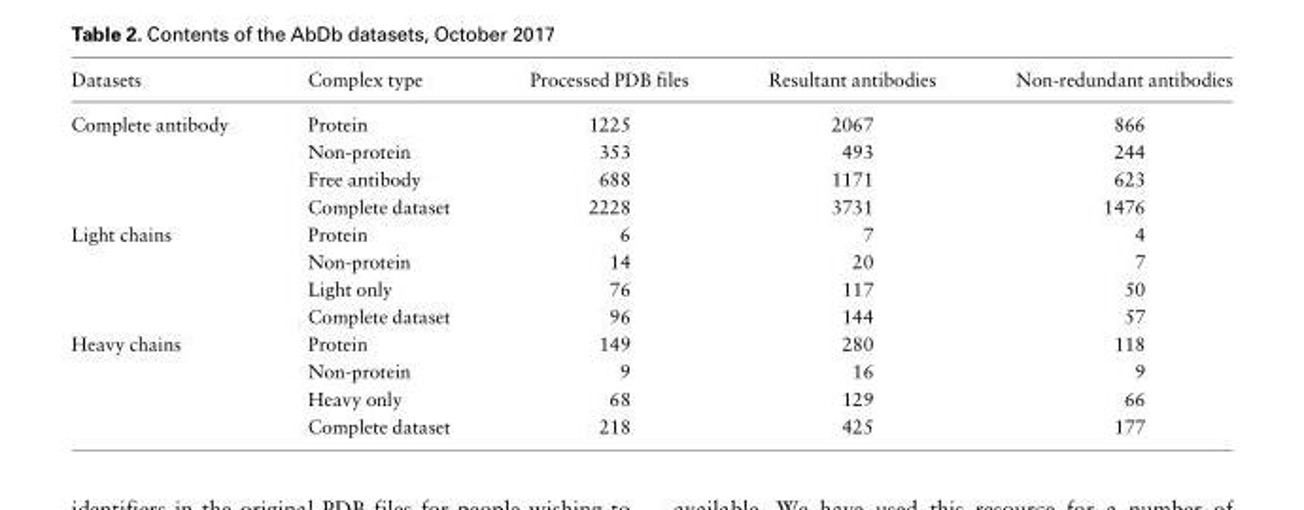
<table><thead><tr><td>Datasets</td><td>Complex type</td><td>Processed PDB files</td><td>Resultant antibodies</td><td>Non-redundant antibodies</td></tr></thead><tbody><tr><td rowspan="4">Complete antibody</td><td>Protein</td><td>1225</td><td>2067</td><td>866</td></tr><tr><td>Non-protein</td><td>353</td><td>493</td><td>244</td></tr><tr><td>Free antibody</td><td>688</td><td>1171</td><td>623</td></tr><tr><td>Complete dataset</td><td>2228</td><td>3731</td><td>1476</td></tr><tr><td rowspan="4">Light chains</td><td>Protein</td><td>6</td><td>7</td><td>4</td></tr><tr><td>Non-protein</td><td>14</td><td>20</td><td>7</td></tr><tr><td>Light only</td><td>76</td><td>117</td><td>50</td></tr><tr><td>Complete dataset</td><td>96</td><td>144</td><td>57</td></tr><tr><td rowspan="4">Heavy chains</td><td>Protein</td><td>149</td><td>280</td><td>118</td></tr><tr><td>Non-protein</td><td>9</td><td>16</td><td>9</td></tr><tr><td>Heavy only</td><td>68</td><td>129</td><td>66</td></tr><tr><td>Complete dataset</td><td>218</td><td>425</td><td>177</td></tr></tbody></table>